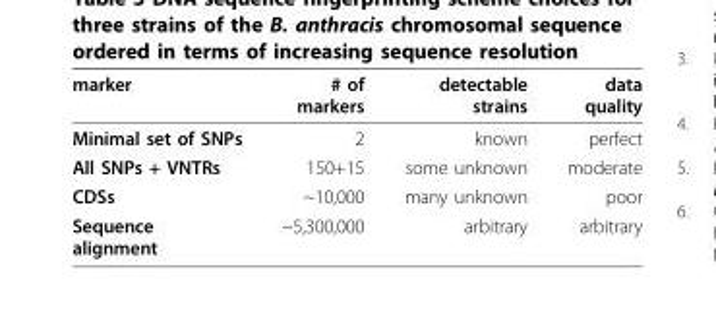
<table><thead><tr><td>marker</td><td># of markers</td><td>detectable strains</td><td>data quality</td></tr></thead><tbody><tr><td>Minimal set of SNPs</td><td>2</td><td>known</td><td>perfect</td></tr><tr><td>All SNPs + VNTRs</td><td>150+15</td><td>some unknown</td><td>moderate</td></tr><tr><td>CDSs</td><td>~10,000</td><td>many unknown</td><td>poor</td></tr><tr><td>Sequence alignment</td><td>~5,300,000</td><td>arbitrary</td><td>arbitrary</td></tr></tbody></table>